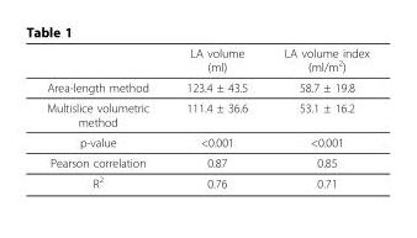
<table><thead><tr><td></td><td>LA volume (ml)</td><td>LA volume index (ml/m<sup>2</sup>)</td></tr></thead><tbody><tr><td>Area-length method</td><td>123.4 ± 43.5</td><td>58.7 ± 19.8</td></tr><tr><td>Multislice volumetric method</td><td>111.4 ± 36.6</td><td>53.1 ± 16.2</td></tr><tr><td>p-value</td><td>&lt;0.001</td><td>&lt;0.001</td></tr><tr><td>Pearson correlation</td><td>0.87</td><td>0.85</td></tr><tr><td>R<sup>2</sup></td><td>0.76</td><td>0.71</td></tr></tbody></table>